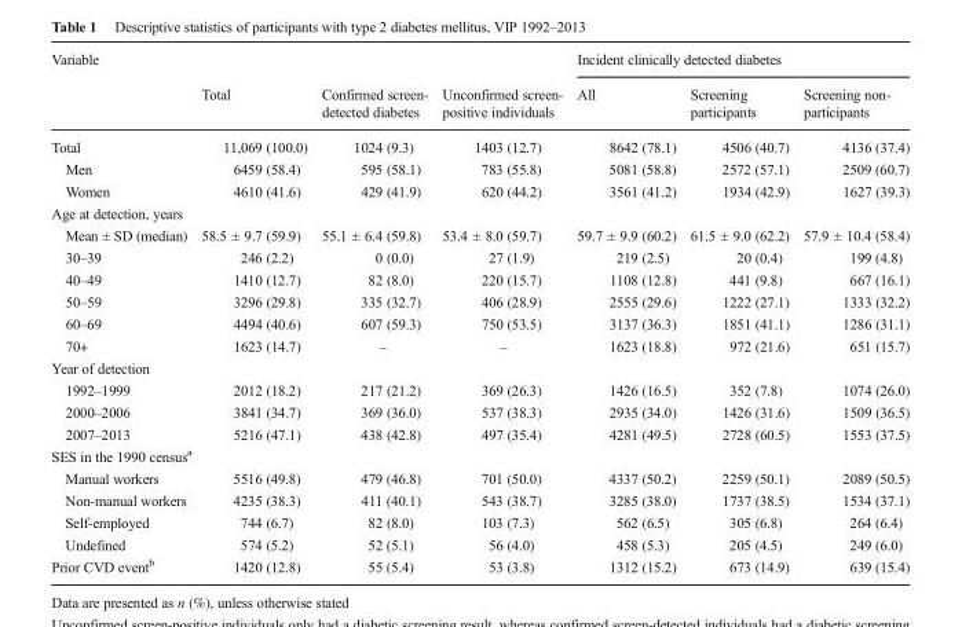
<table><thead><tr><td rowspan="2">Variable</td><td rowspan="2">Total</td><td rowspan="2">Confirmed screen- detected diabetes</td><td rowspan="2">Unconfirmed screen- positive individuals</td><td colspan="3">Incident clinically detected diabetes</td></tr><tr><td>All</td><td>Screening participants</td><td>Screening non- participants</td></tr></thead><tbody><tr><td>Total</td><td>11,069 (100.0)</td><td>1024 (9.3)</td><td>1403 (12.7)</td><td>8642 (78.1)</td><td>4506 (40.7)</td><td>4136 (37.4)</td></tr><tr><td>Men</td><td>6459 (58.4)</td><td>595 (58.1)</td><td>783 (55.8)</td><td>5081 (58.8)</td><td>2572 (57.1)</td><td>2509 (60.7)</td></tr><tr><td>Women</td><td>4610 (41.6)</td><td>429 (41.9)</td><td>620 (44.2)</td><td>3561 (41.2)</td><td>1934 (42.9)</td><td>1627 (39.3)</td></tr><tr><td colspan="7">Age at detection, years</td></tr><tr><td>Mean ± SD (median)</td><td>58.5 ± 9.7 (59.9)</td><td>55.1 ± 6.4 (59.8)</td><td>53.4 ± 8.0 (59.7)</td><td>59.7 ± 9.9 (60.2)</td><td>61.5 ± 9.0 (62.2)</td><td>57.9 ± 10.4 (58.4)</td></tr><tr><td>30–39</td><td>246 (2.2)</td><td>0 (0.0)</td><td>27 (1.9)</td><td>219 (2.5)</td><td>20 (0.4)</td><td>199 (4.8)</td></tr><tr><td>40–49</td><td>1410 (12.7)</td><td>82 (8.0)</td><td>220 (15.7)</td><td>1108 (12.8)</td><td>441 (9.8)</td><td>667 (16.1)</td></tr><tr><td>50–59</td><td>3296 (29.8)</td><td>335 (32.7)</td><td>406 (28.9)</td><td>2555 (29.6)</td><td>1222 (27.1)</td><td>1333 (32.2)</td></tr><tr><td>60–69</td><td>4494 (40.6)</td><td>607 (59.3)</td><td>750 (53.5)</td><td>3137 (36.3)</td><td>1851 (41.1)</td><td>1286 (31.1)</td></tr><tr><td>70+</td><td>1623 (14.7)</td><td>–</td><td>–</td><td>1623 (18.8)</td><td>972 (21.6)</td><td>651 (15.7)</td></tr><tr><td colspan="7">Year of detection</td></tr><tr><td>1992–1999</td><td>2012 (18.2)</td><td>217 (21.2)</td><td>369 (26.3)</td><td>1426 (16.5)</td><td>352 (7.8)</td><td>1074 (26.0)</td></tr><tr><td>2000–2006</td><td>3841 (34.7)</td><td>369 (36.0)</td><td>537 (38.3)</td><td>2935 (34.0)</td><td>1426 (31.6)</td><td>1509 (36.5)</td></tr><tr><td>2007–2013</td><td>5216 (47.1)</td><td>438 (42.8)</td><td>497 (35.4)</td><td>4281 (49.5)</td><td>2728 (60.5)</td><td>1553 (37.5)</td></tr><tr><td colspan="7">SES in the 1990 census<sup>a</sup></td></tr><tr><td>Manual workers</td><td>5516 (49.8)</td><td>479 (46.8)</td><td>701 (50.0)</td><td>4337 (50.2)</td><td>2259 (50.1)</td><td>2089 (50.5)</td></tr><tr><td>Non-manual workers</td><td>4235 (38.3)</td><td>411 (40.1)</td><td>543 (38.7)</td><td>3285 (38.0)</td><td>1737 (38.5)</td><td>1534 (37.1)</td></tr><tr><td>Self-employed</td><td>744 (6.7)</td><td>82 (8.0)</td><td>103 (7.3)</td><td>562 (6.5)</td><td>305 (6.8)</td><td>264 (6.4)</td></tr><tr><td>Undefined</td><td>574 (5.2)</td><td>52 (5.1)</td><td>56 (4.0)</td><td>458 (5.3)</td><td>205 (4.5)</td><td>249 (6.0)</td></tr><tr><td>Prior CVD event<sup>b</sup></td><td>1420 (12.8)</td><td>55 (5.4)</td><td>53 (3.8)</td><td>1312 (15.2)</td><td>673 (14.9)</td><td>639 (15.4)</td></tr></tbody></table>